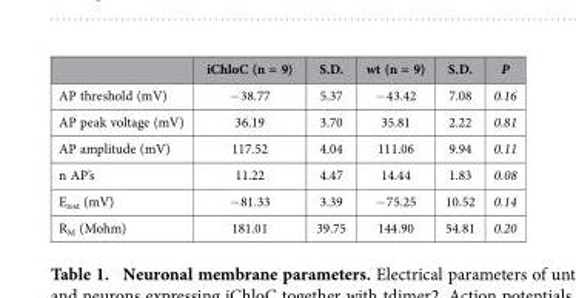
<table><thead><tr><td></td><td>iChloC (n = 9)</td><td>S.D.</td><td>wt (n = 9)</td><td>S.D.</td><td>P</td></tr></thead><tbody><tr><td>AP threshold (mV)</td><td>− 38.77</td><td>5.37</td><td>− 43.42</td><td>7.08</td><td>0.16</td></tr><tr><td>AP peak voltage (mV)</td><td>36.19</td><td>3.70</td><td>35.81</td><td>2.22</td><td>0.81</td></tr><tr><td>AP amplitude (mV)</td><td>117.52</td><td>4.04</td><td>111.06</td><td>9.94</td><td>0.11</td></tr><tr><td>n AP’s</td><td>11.22</td><td>4.47</td><td>14.44</td><td>1.83</td><td>0.08</td></tr><tr><td>E<sub>rest</sub> (mV)</td><td>− 81.33</td><td>3.39</td><td>− 75.25</td><td>10.52</td><td>0.14</td></tr><tr><td>R<sub>M</sub> (Mohm)</td><td>181.01</td><td>39.75</td><td>144.90</td><td>54.81</td><td>0.20</td></tr></tbody></table>